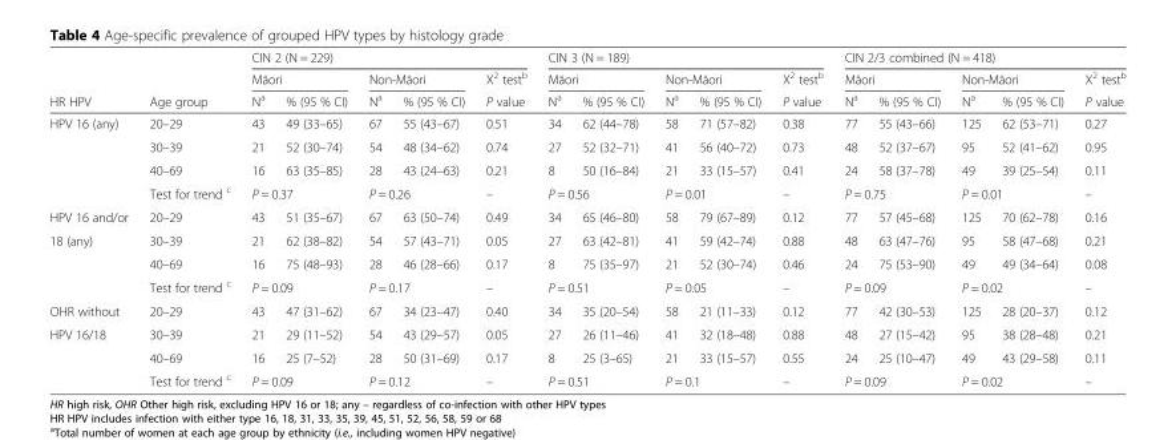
<table><thead><tr><td rowspan="3">HR HPV</td><td rowspan="3">Age group</td><td colspan="5">CIN 2 (N = 229)</td><td colspan="5">CIN 3 (N = 189)</td><td colspan="5">CIN 2/3 combined (N = 418)</td></tr><tr><td colspan="2">Māori</td><td colspan="2">Non-Māori</td><td rowspan="2">X<sup>2</sup> test<sup>b</sup> P value</td><td colspan="2">Māori</td><td colspan="2">Non-Māori</td><td rowspan="2">X<sup>2</sup> test<sup>b</sup> P value</td><td colspan="2">Māori</td><td colspan="2">Non-Māori</td><td rowspan="2">X<sup>2</sup> test<sup>b</sup> P value</td></tr><tr><td>N<sup>a</sup></td><td>% (95 % CI)</td><td>N<sup>a</sup></td><td>% (95 % CI)</td><td>N<sup>a</sup></td><td>% (95 % CI)</td><td>N<sup>a</sup></td><td>% (95 % CI)</td><td>N<sup>a</sup></td><td>% (95 % CI)</td><td>N<sup>a</sup></td><td>% (95 % CI)</td></tr></thead><tbody><tr><td rowspan="4">HPV 16 (any)</td><td>20–29</td><td>43</td><td>49 (33–65)</td><td>67</td><td>55 (43–67)</td><td>0.51</td><td>34</td><td>62 (44–78)</td><td>58</td><td>71 (57–82)</td><td>0.38</td><td>77</td><td>55 (43–66)</td><td>125</td><td>62 (53–71)</td><td>0.27</td></tr><tr><td>30–39</td><td>21</td><td>52 (30–74)</td><td>54</td><td>48 (34–62)</td><td>0.74</td><td>27</td><td>52 (32–71)</td><td>41</td><td>56 (40–72)</td><td>0.73</td><td>48</td><td>52 (37–67)</td><td>95</td><td>52 (41–62)</td><td>0.95</td></tr><tr><td>40–69</td><td>16</td><td>63 (35–85)</td><td>28</td><td>43 (24–63)</td><td>0.21</td><td>8</td><td>50 (16–84)</td><td>21</td><td>33 (15–57)</td><td>0.41</td><td>24</td><td>58 (37–78)</td><td>49</td><td>39 (25–54)</td><td>0.11</td></tr><tr><td>Test for trend <sup>c</sup></td><td colspan="2">P = 0.37</td><td colspan="2">P = 0.26</td><td>–</td><td colspan="2">P = 0.56</td><td colspan="2">P = 0.01</td><td>–</td><td colspan="2">P = 0.75</td><td colspan="2">P = 0.01</td><td>–</td></tr><tr><td>HPV 16 and/or</td><td>20–29</td><td>43</td><td>51 (35–67)</td><td>67</td><td>63 (50–74)</td><td>0.49</td><td>34</td><td>65 (46–80)</td><td>58</td><td>79 (67–89)</td><td>0.12</td><td>77</td><td>57 (45–68)</td><td>125</td><td>70 (62–78)</td><td>0.16</td></tr><tr><td rowspan="3">18 (any)</td><td>30–39</td><td>21</td><td>62 (38–82)</td><td>54</td><td>57 (43–71)</td><td>0.05</td><td>27</td><td>63 (42–81)</td><td>41</td><td>59 (42–74)</td><td>0.88</td><td>48</td><td>63 (47–76)</td><td>95</td><td>58 (47–68)</td><td>0.21</td></tr><tr><td>40–69</td><td>16</td><td>75 (48–93)</td><td>28</td><td>46 (28–66)</td><td>0.17</td><td>8</td><td>75 (35–97)</td><td>21</td><td>52 (30–74)</td><td>0.46</td><td>24</td><td>75 (53–90)</td><td>49</td><td>49 (34–64)</td><td>0.08</td></tr><tr><td>Test for trend <sup>c</sup></td><td colspan="2">P = 0.09</td><td colspan="2">P = 0.17</td><td>–</td><td colspan="2">P = 0.51</td><td colspan="2">P = 0.05</td><td>–</td><td colspan="2">P = 0.09</td><td colspan="2">P = 0.02</td><td>–</td></tr><tr><td>OHR without</td><td>20–29</td><td>43</td><td>47 (31–62)</td><td>67</td><td>34 (23–47)</td><td>0.40</td><td>34</td><td>35 (20–54)</td><td>58</td><td>21 (11–33)</td><td>0.12</td><td>77</td><td>42 (30–53)</td><td>125</td><td>28 (20–37)</td><td>0.12</td></tr><tr><td rowspan="3">HPV 16/18</td><td>30–39</td><td>21</td><td>29 (11–52)</td><td>54</td><td>43 (29–57)</td><td>0.05</td><td>27</td><td>26 (11–46)</td><td>41</td><td>32 (18–48)</td><td>0.88</td><td>48</td><td>27 (15–42)</td><td>95</td><td>38 (28–48)</td><td>0.21</td></tr><tr><td>40–69</td><td>16</td><td>25 (7–52)</td><td>28</td><td>50 (31–69)</td><td>0.17</td><td>8</td><td>25 (3–65)</td><td>21</td><td>33 (15–57)</td><td>0.55</td><td>24</td><td>25 (10–47)</td><td>49</td><td>43 (29–58)</td><td>0.11</td></tr><tr><td>Test for trend <sup>c</sup></td><td colspan="2">P = 0.09</td><td colspan="2">P = 0.12</td><td>–</td><td colspan="2">P = 0.51</td><td colspan="2">P = 0.1</td><td>–</td><td colspan="2">P = 0.09</td><td colspan="2">P = 0.02</td><td>–</td></tr></tbody></table>